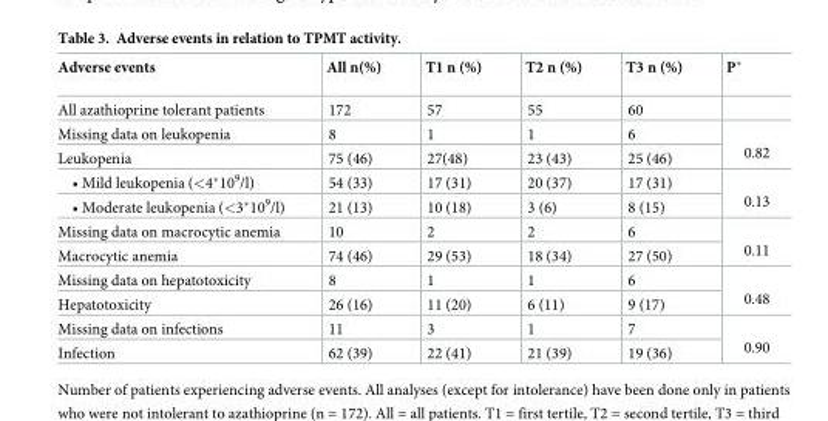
<table><thead><tr><td>Adverse events</td><td>All n(%)</td><td>T1 n (%)</td><td>T2 n (%)</td><td>T3 n (%)</td><td>P*</td></tr></thead><tbody><tr><td>All azathioprine tolerant patients</td><td>172</td><td>57</td><td>55</td><td>60</td><td></td></tr><tr><td>Missing data on leukopenia</td><td>8</td><td>1</td><td>1</td><td>6</td><td rowspan="2">0.82</td></tr><tr><td>Leukopenia</td><td>75 (46)</td><td>27(48)</td><td>23 (43)</td><td>25 (46)</td></tr><tr><td>• Mild leukopenia (&lt;4*10<sup>9</sup>/l)</td><td>54 (33)</td><td>17 (31)</td><td>20 (37)</td><td>17 (31)</td><td rowspan="2">0.13</td></tr><tr><td>• Moderate leukopenia (&lt;3*10<sup>9</sup>/l)</td><td>21 (13)</td><td>10 (18)</td><td>3 (6)</td><td>8 (15)</td></tr><tr><td>Missing data on macrocytic anemia</td><td>10</td><td>2</td><td>2</td><td>6</td><td rowspan="2">0.11</td></tr><tr><td>Macrocytic anemia</td><td>74 (46)</td><td>29 (53)</td><td>18 (34)</td><td>27 (50)</td></tr><tr><td>Missing data on hepatotoxicity</td><td>8</td><td>1</td><td>1</td><td>6</td><td rowspan="2">0.48</td></tr><tr><td>Hepatotoxicity</td><td>26 (16)</td><td>11 (20)</td><td>6 (11)</td><td>9 (17)</td></tr><tr><td>Missing data on infections</td><td>11</td><td>3</td><td>1</td><td>7</td><td rowspan="2">0.90</td></tr><tr><td>Infection</td><td>62 (39)</td><td>22 (41)</td><td>21 (39)</td><td>19 (36)</td></tr></tbody></table>